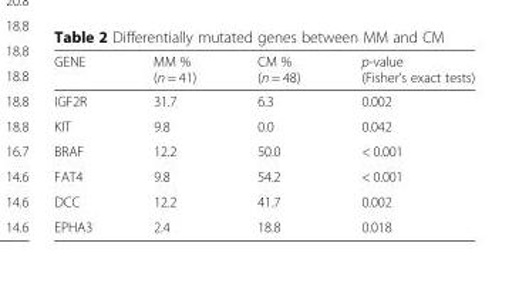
<table><thead><tr><td>GENE</td><td>MM % (n = 41)</td><td>CM % (n = 48)</td><td>p-value (Fisher’s exact tests)</td></tr></thead><tbody><tr><td>IGF2R</td><td>31.7</td><td>6.3</td><td>0.002</td></tr><tr><td>KIT</td><td>9.8</td><td>0.0</td><td>0.042</td></tr><tr><td>BRAF</td><td>12.2</td><td>50.0</td><td>&lt; 0.001</td></tr><tr><td>FAT4</td><td>9.8</td><td>54.2</td><td>&lt; 0.001</td></tr><tr><td>DCC</td><td>12.2</td><td>41.7</td><td>0.002</td></tr><tr><td>EPHA3</td><td>2.4</td><td>18.8</td><td>0.018</td></tr></tbody></table>